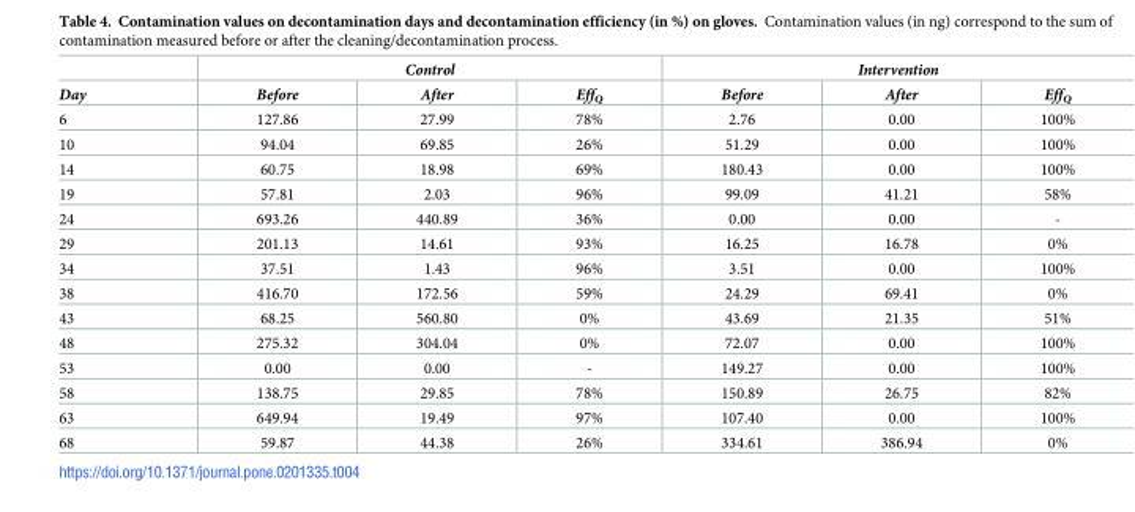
<table><thead><tr><td rowspan="2">Day</td><td colspan="3">Control</td><td colspan="3">Intervention</td></tr><tr><td>Before</td><td>After</td><td>Eff<sub>Q</sub></td><td>Before</td><td>After</td><td>Eff<sub>Q</sub></td></tr></thead><tbody><tr><td>6</td><td>127.86</td><td>27.99</td><td>78%</td><td>2.76</td><td>0.00</td><td>100%</td></tr><tr><td>10</td><td>94.04</td><td>69.85</td><td>26%</td><td>51.29</td><td>0.00</td><td>100%</td></tr><tr><td>14</td><td>60.75</td><td>18.98</td><td>69%</td><td>180.43</td><td>0.00</td><td>100%</td></tr><tr><td>19</td><td>57.81</td><td>2.03</td><td>96%</td><td>99.09</td><td>41.21</td><td>58%</td></tr><tr><td>24</td><td>693.26</td><td>440.89</td><td>36%</td><td>0.00</td><td>0.00</td><td>-</td></tr><tr><td>29</td><td>201.13</td><td>14.61</td><td>93%</td><td>16.25</td><td>16.78</td><td>0%</td></tr><tr><td>34</td><td>37.51</td><td>1.43</td><td>96%</td><td>3.51</td><td>0.00</td><td>100%</td></tr><tr><td>38</td><td>416.70</td><td>172.56</td><td>59%</td><td>24.29</td><td>69.41</td><td>0%</td></tr><tr><td>43</td><td>68.25</td><td>560.80</td><td>0%</td><td>43.69</td><td>21.35</td><td>51%</td></tr><tr><td>48</td><td>275.32</td><td>304.04</td><td>0%</td><td>72.07</td><td>0.00</td><td>100%</td></tr><tr><td>53</td><td>0.00</td><td>0.00</td><td>-</td><td>149.27</td><td>0.00</td><td>100%</td></tr><tr><td>58</td><td>138.75</td><td>29.85</td><td>78%</td><td>150.89</td><td>26.75</td><td>82%</td></tr><tr><td>63</td><td>649.94</td><td>19.49</td><td>97%</td><td>107.40</td><td>0.00</td><td>100%</td></tr><tr><td>68</td><td>59.87</td><td>44.38</td><td>26%</td><td>334.61</td><td>386.94</td><td>0%</td></tr></tbody></table>